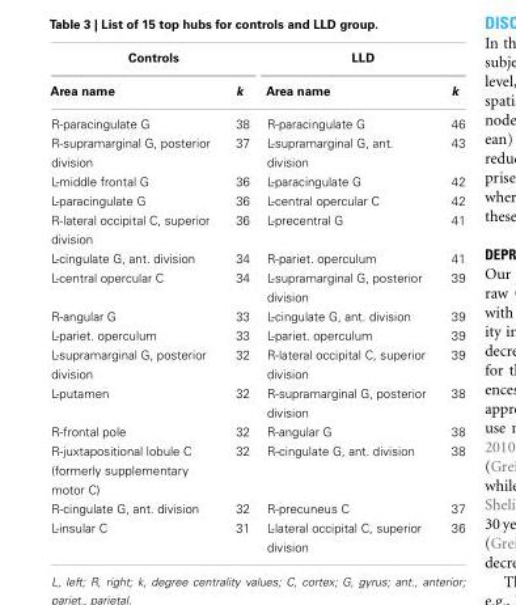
<table><thead><tr><td colspan="2">Controls</td><td colspan="2">LLD</td></tr><tr><td>Area name</td><td>k</td><td>Area name</td><td>k</td></tr></thead><tbody><tr><td>R-paracingulate G</td><td>38</td><td>R-paracingulate G</td><td>46</td></tr><tr><td>R-supramarginal G, posterior division</td><td>37</td><td>L-supramarginal G, ant. division</td><td>43</td></tr><tr><td>L-middle frontal G</td><td>36</td><td>L-paracingulate G</td><td>42</td></tr><tr><td>L-paracingulate G</td><td>36</td><td>L-central opercular C</td><td>42</td></tr><tr><td>R-lateral occipital C, superior division</td><td>36</td><td>L-precentral G</td><td>41</td></tr><tr><td>L-cingulate G, ant. division</td><td>34</td><td>R-pariet. operculum</td><td>41</td></tr><tr><td>L-central opercular C</td><td>34</td><td>L-supramarginal G, posterior division</td><td>39</td></tr><tr><td>R-angular G</td><td>33</td><td>L-cingulate G, ant. division</td><td>39</td></tr><tr><td>L-pariet. operculum</td><td>33</td><td>L-pariet. operculum</td><td>39</td></tr><tr><td>L-supramarginal G, posterior division</td><td>32</td><td>R-lateral occipital C, superior division</td><td>39</td></tr><tr><td>L-putamen</td><td>32</td><td>R-supramarginal G, posterior division</td><td>38</td></tr><tr><td>R-frontal pole</td><td>32</td><td>R-angular G</td><td>38</td></tr><tr><td>R-juxtapositional lobule C (formerly supplementary motor C)</td><td>32</td><td>R-cingulate G, ant. division</td><td>38</td></tr><tr><td>R-cingulate G, ant. division</td><td>32</td><td>R-precuneus C</td><td>37</td></tr><tr><td>L-insular C</td><td>31</td><td>L-lateral occipital C, superior division</td><td>36</td></tr></tbody></table>